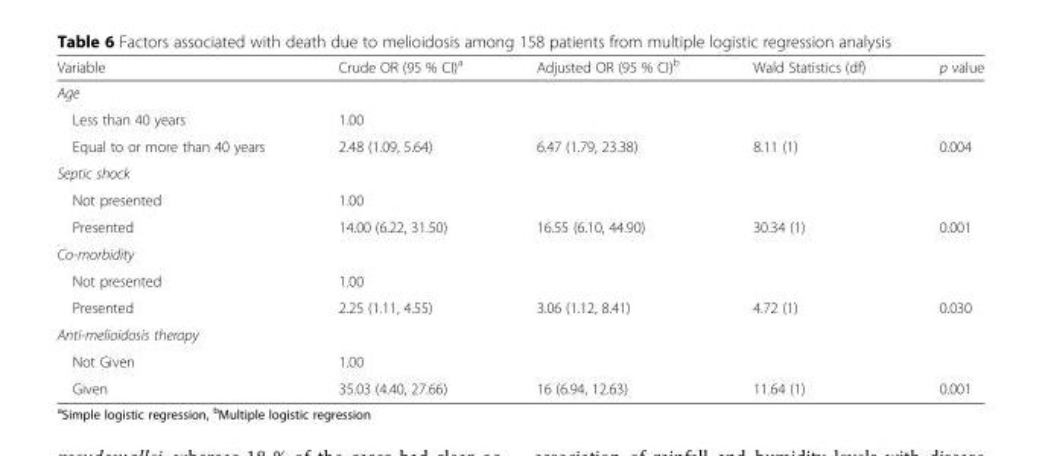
<table><thead><tr><td>Variable</td><td>Crude OR (95 % CI)<sup>a</sup></td><td>Adjusted OR (95 % CI)<sup>b</sup></td><td>Wald Statistics (df)</td><td>p value</td></tr></thead><tbody><tr><td colspan="5">Age</td></tr><tr><td>Less than 40 years</td><td>1.00</td><td></td><td></td><td></td></tr><tr><td>Equal to or more than 40 years</td><td>2.48 (1.09, 5.64)</td><td>6.47 (1.79, 23.38)</td><td>8.11 (1)</td><td>0.004</td></tr><tr><td colspan="5">Septic shock</td></tr><tr><td>Not presented</td><td>1.00</td><td></td><td></td><td></td></tr><tr><td>Presented</td><td>14.00 (6.22, 31.50)</td><td>16.55 (6.10, 44.90)</td><td>30.34 (1)</td><td>0.001</td></tr><tr><td colspan="5">Co-morbidity</td></tr><tr><td>Not presented</td><td>1.00</td><td></td><td></td><td></td></tr><tr><td>Presented</td><td>2.25 (1.11, 4.55)</td><td>3.06 (1.12, 8.41)</td><td>4.72 (1)</td><td>0.030</td></tr><tr><td colspan="5">Anti-melioidosis therapy</td></tr><tr><td>Not Given</td><td>1.00</td><td></td><td></td><td></td></tr><tr><td>Given</td><td>35.03 (4.40, 27.66)</td><td>16 (6.94, 12.63)</td><td>11.64 (1)</td><td>0.001</td></tr></tbody></table>